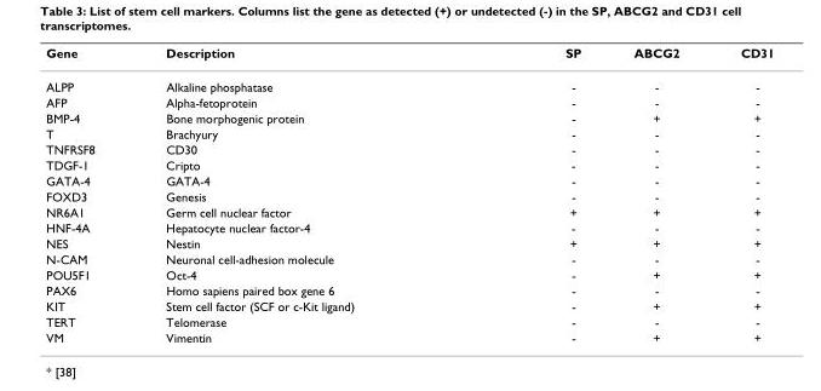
<table><thead><tr><td>Gene</td><td>Description</td><td>SP</td><td>ABCG2</td><td>CD31</td></tr></thead><tbody><tr><td>ALPP</td><td>Alkaline phosphatase</td><td>-</td><td>-</td><td>-</td></tr><tr><td>AFP</td><td>Alpha-fetoprotein</td><td>-</td><td>-</td><td>-</td></tr><tr><td>BMP-4</td><td>Bone morphogenic protein</td><td>-</td><td>+</td><td>+</td></tr><tr><td>T</td><td>Brachyury</td><td>-</td><td>-</td><td>-</td></tr><tr><td>TNFRSF8</td><td>CD30</td><td>-</td><td>-</td><td>-</td></tr><tr><td>TDGF-1</td><td>Cripto</td><td>-</td><td>-</td><td>-</td></tr><tr><td>GATA-4</td><td>GATA-4</td><td>-</td><td>-</td><td>-</td></tr><tr><td>FOXD3</td><td>Genesis</td><td>-</td><td>-</td><td>-</td></tr><tr><td>NR6A1</td><td>Germ cell nuclear factor</td><td>+</td><td>+</td><td>+</td></tr><tr><td>HNF-4A</td><td>Hepatocyte nuclear factor-4</td><td>-</td><td>-</td><td>-</td></tr><tr><td>NES</td><td>Nestin</td><td>+</td><td>+</td><td>+</td></tr><tr><td>N-CAM</td><td>Neuronal cell-adhesion molecule</td><td>-</td><td>-</td><td>-</td></tr><tr><td>POU5F1</td><td>Oct-4</td><td>-</td><td>+</td><td>+</td></tr><tr><td>PAX6</td><td>Homo sapiens paired box gene 6</td><td>-</td><td>-</td><td>-</td></tr><tr><td>KIT</td><td>Stem cell factor (SCF or c-Kit ligand)</td><td>-</td><td>+</td><td>+</td></tr><tr><td>TERT</td><td>Telomerase</td><td>-</td><td>-</td><td>-</td></tr><tr><td>VM</td><td>Vimentin</td><td>-</td><td>+</td><td>+</td></tr></tbody></table>